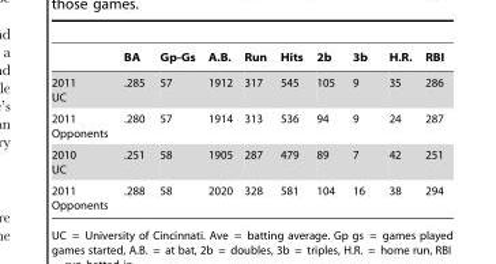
<table><thead><tr><td></td><td>BA</td><td>Gp-Gs</td><td>A.B.</td><td>Run</td><td>Hits</td><td>2b</td><td>3b</td><td>H.R.</td><td>RBI</td></tr></thead><tbody><tr><td>2011 UC</td><td>.285</td><td>57</td><td>1912</td><td>317</td><td>545</td><td>105</td><td>9</td><td>35</td><td>286</td></tr><tr><td>2011 Opponents</td><td>.280</td><td>57</td><td>1914</td><td>313</td><td>536</td><td>94</td><td>9</td><td>24</td><td>287</td></tr><tr><td>2010 UC</td><td>.251</td><td>58</td><td>1905</td><td>287</td><td>479</td><td>89</td><td>7</td><td>42</td><td>251</td></tr><tr><td>2011 Opponents</td><td>.288</td><td>58</td><td>2020</td><td>328</td><td>581</td><td>104</td><td>16</td><td>38</td><td>294</td></tr></tbody></table>